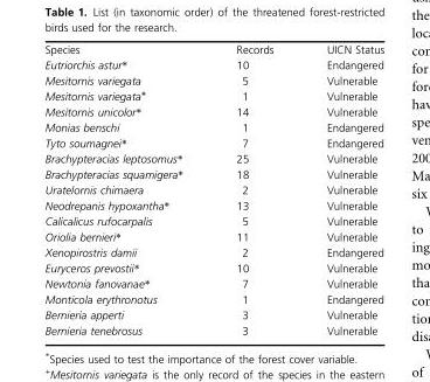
<table><tbody><tr><td>Species</td><td>Records</td><td>UICN Status</td></tr><tr><td>Eutriorchis astur*</td><td>10</td><td>Endangered</td></tr><tr><td>Mesitornis variegata</td><td>5</td><td>Vulnerable</td></tr><tr><td>Mesitornis variegata+</td><td>1</td><td>Vulnerable</td></tr><tr><td>Mesitornis unicolor*</td><td>14</td><td>Vulnerable</td></tr><tr><td>Monias benschi</td><td>1</td><td>Endangered</td></tr><tr><td>Tyto soumagnei*</td><td>7</td><td>Endangered</td></tr><tr><td>Brachypteracias leptosomus*</td><td>25</td><td>Vulnerable</td></tr><tr><td>Brachypteracias squamigera*</td><td>18</td><td>Vulnerable</td></tr><tr><td>Uratelornis chimaera</td><td>2</td><td>Vulnerable</td></tr><tr><td>Neodrepanis hypoxantha*</td><td>13</td><td>Vulnerable</td></tr><tr><td>Calicalicus rufocarpalis</td><td>5</td><td>Vulnerable</td></tr><tr><td>Oriolia bernieri*</td><td>11</td><td>Vulnerable</td></tr><tr><td>Xenopirostris damii</td><td>2</td><td>Endangered</td></tr><tr><td>Euryceros prevostii*</td><td>10</td><td>Vulnerable</td></tr><tr><td>Newtonia fanovanae*</td><td>7</td><td>Vulnerable</td></tr><tr><td>Monticola erythronotus</td><td>1</td><td>Endangered</td></tr><tr><td>Bernieria apperti</td><td>3</td><td>Vulnerable</td></tr><tr><td>Bernieria tenebrosus</td><td>3</td><td>Vulnerable</td></tr></tbody></table>